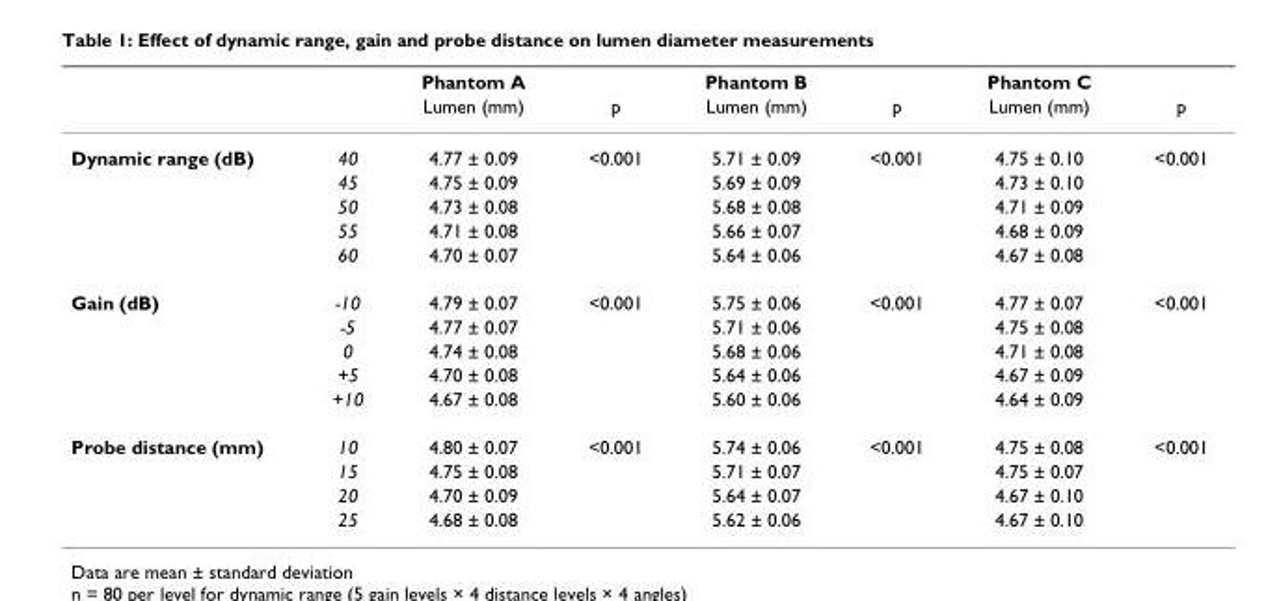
<table><thead><tr><td rowspan="2"></td><td rowspan="2"></td><td rowspan="2">Phantom A Lumen (mm)</td><td rowspan="2">p</td><td rowspan="2">Phantom B Lumen (mm)</td><td rowspan="2">p</td><td rowspan="2">Phantom C Lumen (mm)</td><td rowspan="2">p</td></tr><tr></tr></thead><tbody><tr><td rowspan="5">Dynamic range (dB)</td><td>40</td><td>4.77 ± 0.09</td><td>&lt;0.001</td><td>5.71 ± 0.09</td><td>&lt;0.001</td><td>4.75 ± 0.10</td><td>&lt;0.001</td></tr><tr><td>45</td><td>4.75 ± 0.09</td><td></td><td>5.69 ± 0.09</td><td></td><td>4.73 ± 0.10</td><td></td></tr><tr><td>50</td><td>4.73 ± 0.08</td><td></td><td>5.68 ± 0.08</td><td></td><td>4.71 ± 0.09</td><td></td></tr><tr><td>55</td><td>4.71 ± 0.08</td><td></td><td>5.66 ± 0.07</td><td></td><td>4.68 ± 0.09</td><td></td></tr><tr><td>60</td><td>4.70 ± 0.07</td><td></td><td>5.64 ± 0.06</td><td></td><td>4.67 ± 0.08</td><td></td></tr><tr><td rowspan="5">Gain (dB)</td><td>-10</td><td>4.79 ± 0.07</td><td>&lt;0.001</td><td>5.75 ± 0.06</td><td>&lt;0.001</td><td>4.77 ± 0.07</td><td>&lt;0.001</td></tr><tr><td>-5</td><td>4.77 ± 0.07</td><td></td><td>5.71 ± 0.06</td><td></td><td>4.75 ± 0.08</td><td></td></tr><tr><td>0</td><td>4.74 ± 0.08</td><td></td><td>5.68 ± 0.06</td><td></td><td>4.71 ± 0.08</td><td></td></tr><tr><td>+5</td><td>4.70 ± 0.08</td><td></td><td>5.64 ± 0.06</td><td></td><td>4.67 ± 0.09</td><td></td></tr><tr><td>+10</td><td>4.67 ± 0.08</td><td></td><td>5.60 ± 0.06</td><td></td><td>4.64 ± 0.09</td><td></td></tr><tr><td rowspan="4">Probe distance (mm)</td><td>10</td><td>4.80 ± 0.07</td><td>&lt;0.001</td><td>5.74 ± 0.06</td><td>&lt;0.001</td><td>4.75 ± 0.08</td><td>&lt;0.001</td></tr><tr><td>15</td><td>4.75 ± 0.08</td><td></td><td>5.71 ± 0.07</td><td></td><td>4.75 ± 0.07</td><td></td></tr><tr><td>20</td><td>4.70 ± 0.09</td><td></td><td>5.64 ± 0.07</td><td></td><td>4.67 ± 0.10</td><td></td></tr><tr><td>25</td><td>4.68 ± 0.08</td><td></td><td>5.62 ± 0.06</td><td></td><td>4.67 ± 0.10</td><td></td></tr></tbody></table>